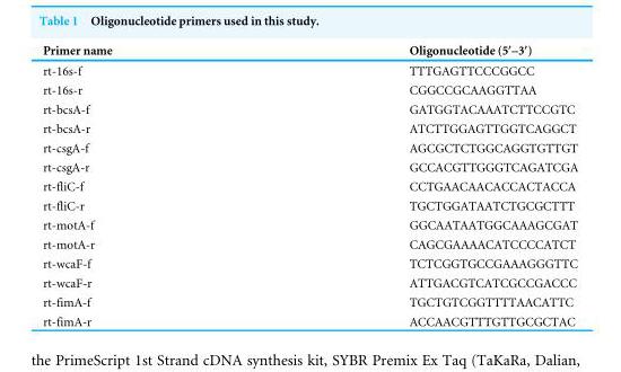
<table><thead><tr><td>Primer name</td><td>Oligonucleotide (5′–3′)</td></tr></thead><tbody><tr><td>rt-16s-f</td><td>TTTGAGTTCCCGGCC</td></tr><tr><td>rt-16s-r</td><td>CGGCCGCAAGGTTAA</td></tr><tr><td>rt-bcsA-f</td><td>GATGGTACAAATCTTCCGTC</td></tr><tr><td>rt-bcsA-r</td><td>ATCTTGGAGTTGGTCAGGCT</td></tr><tr><td>rt-csgA-f</td><td>AGCGCTCTGGCAGGTGTTGT</td></tr><tr><td>rt-csgA-r</td><td>GCCACGTTGGGTCAGATCGA</td></tr><tr><td>rt-fliC-f</td><td>CCTGAACAACACCACTACCA</td></tr><tr><td>rt-fliC-r</td><td>TGCTGGATAATCTGCGCTTT</td></tr><tr><td>rt-motA-f</td><td>GGCAATAATGGCAAAGCGAT</td></tr><tr><td>rt-motA-r</td><td>CAGCGAAAACATCCCCATCT</td></tr><tr><td>rt-wcaF-f</td><td>TCTCGGTGCCGAAAGGGTTC</td></tr><tr><td>rt-wcaF-r</td><td>ATTGACGTCATCGCCGACCC</td></tr><tr><td>rt-fimA-f</td><td>TGCTGTCGGTTTTAACATTC</td></tr><tr><td>rt-fimA-r</td><td>ACCAACGTTTGTTGCGCTAC</td></tr></tbody></table>